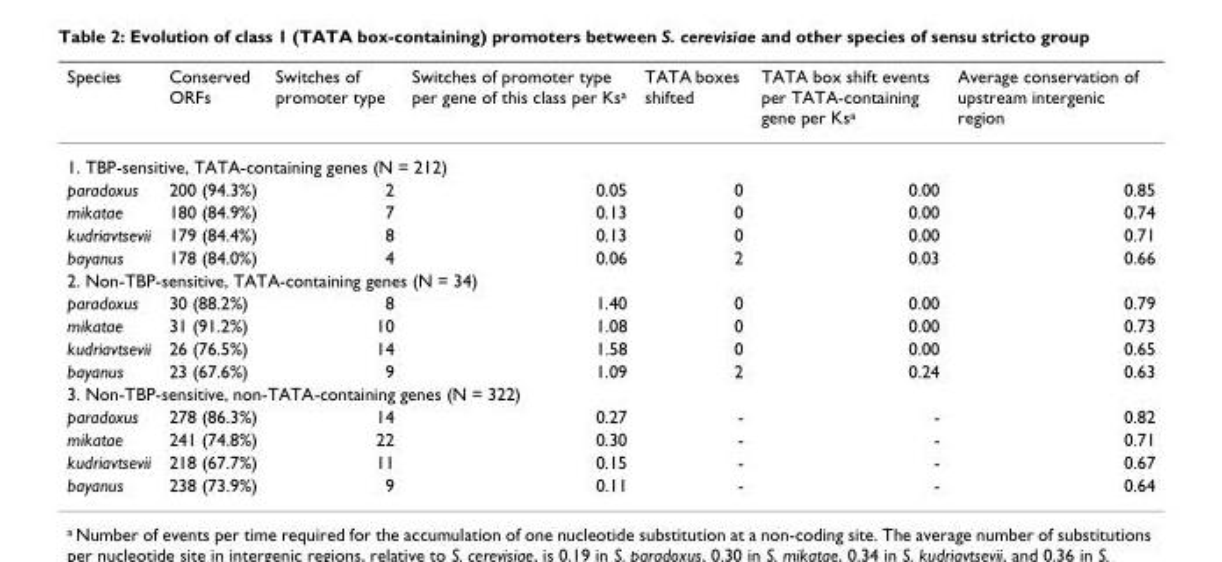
<table><thead><tr><td>Species</td><td>Conserved ORFs</td><td>Switches of promoter type</td><td>Switches of promoter type per gene of this class per Ks<sup>a</sup></td><td>TATA boxes shifted</td><td>TATA box shift events per TATA-containing gene per Ks<sup>a</sup></td><td>Average conservation of upstream intergenic region</td></tr></thead><tbody><tr><td colspan="7">1. TBP-sensitive, TATA-containing genes (N = 212)</td></tr><tr><td>paradoxus</td><td>200 (94.3%)</td><td>2</td><td>0.05</td><td>0</td><td>0.00</td><td>0.85</td></tr><tr><td>mikatae</td><td>180 (84.9%)</td><td>7</td><td>0.13</td><td>0</td><td>0.00</td><td>0.74</td></tr><tr><td>kudriavtsevii</td><td>179 (84.4%)</td><td>8</td><td>0.13</td><td>0</td><td>0.00</td><td>0.71</td></tr><tr><td>bayanus</td><td>178 (84.0%)</td><td>4</td><td>0.06</td><td>2</td><td>0.03</td><td>0.66</td></tr><tr><td colspan="7">2. Non-TBP-sensitive, TATA-containing genes (N = 34)</td></tr><tr><td>paradoxus</td><td>30 (88.2%)</td><td>8</td><td>1.40</td><td>0</td><td>0.00</td><td>0.79</td></tr><tr><td>mikatae</td><td>31 (91.2%)</td><td>10</td><td>1.08</td><td>0</td><td>0.00</td><td>0.73</td></tr><tr><td>kudriavtsevii</td><td>26 (76.5%)</td><td>14</td><td>1.58</td><td>0</td><td>0.00</td><td>0.65</td></tr><tr><td>bayanus</td><td>23 (67.6%)</td><td>9</td><td>1.09</td><td>2</td><td>0.24</td><td>0.63</td></tr><tr><td colspan="7">3. Non-TBP-sensitive, non-TATA-containing genes (N = 322)</td></tr><tr><td>paradoxus</td><td>278 (86.3%)</td><td>14</td><td>0.27</td><td>-</td><td>-</td><td>0.82</td></tr><tr><td>mikatae</td><td>241 (74.8%)</td><td>22</td><td>0.30</td><td>-</td><td>-</td><td>0.71</td></tr><tr><td>kudriavtsevii</td><td>218 (67.7%)</td><td>11</td><td>0.15</td><td>-</td><td>-</td><td>0.67</td></tr><tr><td>bayanus</td><td>238 (73.9%)</td><td>9</td><td>0.11</td><td>-</td><td>-</td><td>0.64</td></tr></tbody></table>